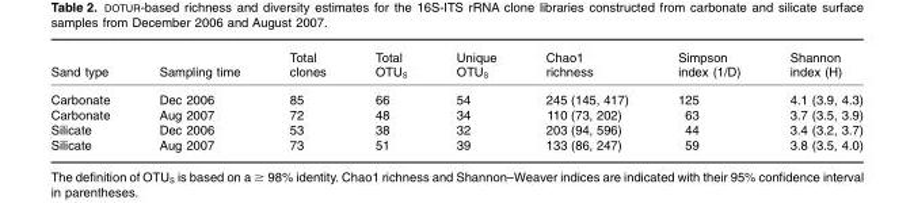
<table><thead><tr><td>Sand type</td><td>Sampling time</td><td>Total clones</td><td>Total OTU<sub>S</sub></td><td>Unique OTU<sub>S</sub></td><td>Chao1 richness</td><td>Simpson index (1/D)</td><td>Shannon index (H)</td></tr></thead><tbody><tr><td>Carbonate</td><td>Dec 2006</td><td>85</td><td>66</td><td>54</td><td>245 (145, 417)</td><td>125</td><td>4.1 (3.9, 4.3)</td></tr><tr><td>Carbonate</td><td>Aug 2007</td><td>72</td><td>48</td><td>34</td><td>110 (73, 202)</td><td>63</td><td>3.7 (3.5, 3.9)</td></tr><tr><td>Silicate</td><td>Dec 2006</td><td>53</td><td>38</td><td>32</td><td>203 (94, 596)</td><td>44</td><td>3.4 (3.2, 3.7)</td></tr><tr><td>Silicate</td><td>Aug 2007</td><td>73</td><td>51</td><td>39</td><td>133 (86, 247)</td><td>59</td><td>3.8 (3.5, 4.0)</td></tr></tbody></table>